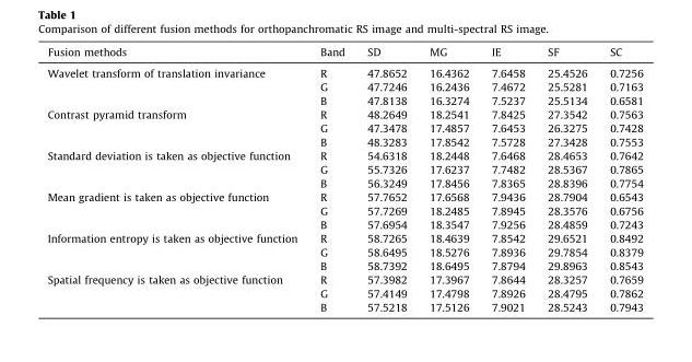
<table><thead><tr><td>Fusion methods</td><td>Band</td><td>SD</td><td>MG</td><td>IE</td><td>SF</td><td>SC</td></tr></thead><tbody><tr><td rowspan="3">Wavelet transform of translation invariance</td><td>R</td><td>47.8652</td><td>16.4362</td><td>7.6458</td><td>25.4526</td><td>0.7256</td></tr><tr><td>G</td><td>47.7246</td><td>16.2436</td><td>7.4672</td><td>25.5281</td><td>0.7163</td></tr><tr><td>B</td><td>47.8138</td><td>16.3274</td><td>7.5237</td><td>25.5134</td><td>0.6581</td></tr><tr><td rowspan="3">Contrast pyramid transform</td><td>R</td><td>48.2649</td><td>18.2541</td><td>7.8425</td><td>27.3542</td><td>0.7563</td></tr><tr><td>G</td><td>47.3478</td><td>17.4857</td><td>7.6453</td><td>26.3275</td><td>0.7428</td></tr><tr><td>B</td><td>48.3283</td><td>17.8542</td><td>7.5728</td><td>27.3428</td><td>0.7553</td></tr><tr><td rowspan="3">Standard deviation is taken as objective function</td><td>R</td><td>54.6318</td><td>18.2448</td><td>7.6468</td><td>28.4653</td><td>0.7642</td></tr><tr><td>G</td><td>55.7326</td><td>17.6237</td><td>7.7482</td><td>28.5367</td><td>0.7865</td></tr><tr><td>B</td><td>56.3249</td><td>17.8456</td><td>7.8365</td><td>28.8396</td><td>0.7754</td></tr><tr><td rowspan="3">Mean gradient is taken as objective function</td><td>R</td><td>57.7652</td><td>17.6568</td><td>7.9436</td><td>28.7904</td><td>0.6543</td></tr><tr><td>G</td><td>57.7269</td><td>18.2485</td><td>7.8945</td><td>28.3576</td><td>0.6756</td></tr><tr><td>B</td><td>57.6954</td><td>18.3547</td><td>7.9256</td><td>28.4859</td><td>0.7243</td></tr><tr><td rowspan="3">Information entropy is taken as objective function</td><td>R</td><td>58.7265</td><td>18.4639</td><td>7.8542</td><td>29.6521</td><td>0.8492</td></tr><tr><td>G</td><td>58.6495</td><td>18.5276</td><td>7.8936</td><td>29.7854</td><td>0.8379</td></tr><tr><td>B</td><td>58.7392</td><td>18.6495</td><td>7.8794</td><td>29.8963</td><td>0.8543</td></tr><tr><td rowspan="3">Spatial frequency is taken as objective function</td><td>R</td><td>57.3982</td><td>17.3967</td><td>7.8644</td><td>28.3257</td><td>0.7659</td></tr><tr><td>G</td><td>57.4149</td><td>17.4798</td><td>7.8926</td><td>28.4795</td><td>0.7862</td></tr><tr><td>B</td><td>57.5218</td><td>17.5126</td><td>7.9021</td><td>28.5243</td><td>0.7943</td></tr></tbody></table>